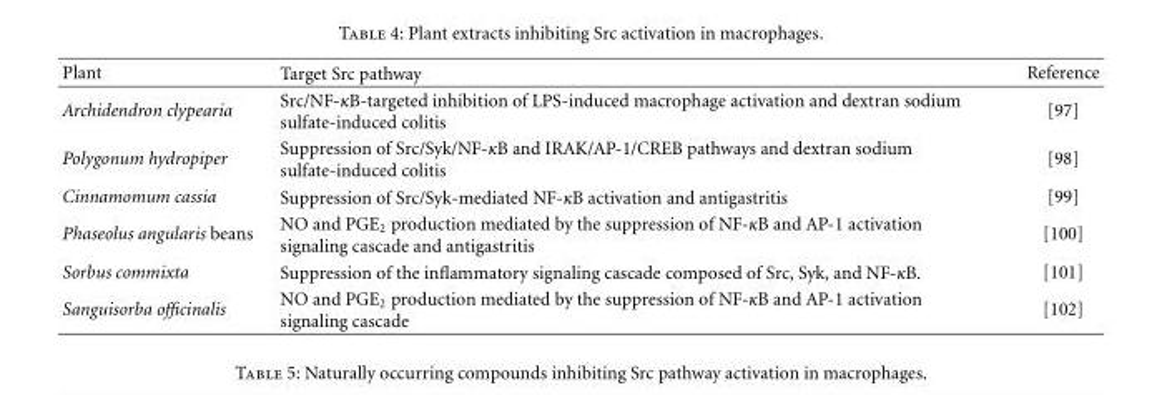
<table><thead><tr><td>Plant</td><td>Target Src pathway</td><td>Reference</td></tr></thead><tbody><tr><td>Archidendron clypearia</td><td>Src/NF-κB-targeted inhibition of LPS-induced macrophage activation and dextran sodium sulfate-induced colitis</td><td>[97]</td></tr><tr><td>Polygonum hydropiper</td><td>Suppression of Src/Syk/NF-κB and IRAK/AP-1/CREB pathways and dextran sodium sulfate-induced colitis</td><td>[98]</td></tr><tr><td>Cinnamomum cassia</td><td>Suppression of Src/Syk-mediated NF-κB activation and antigastritis</td><td>[99]</td></tr><tr><td>Phaseolus angularis beans</td><td>NO and PGE<sub>2</sub> production mediated by the suppression of NF-κB and AP-1 activation signaling cascade and antigastritis</td><td>[100]</td></tr><tr><td>Sorbus commixta</td><td>Suppression of the inflammatory signaling cascade composed of Src, Syk, and NF-κB.</td><td>[101]</td></tr><tr><td>Sanguisorba officinalis</td><td>NO and PGE<sub>2</sub> production mediated by the suppression of NF-κB and AP-1 activation signaling cascade</td><td>[102]</td></tr></tbody></table>